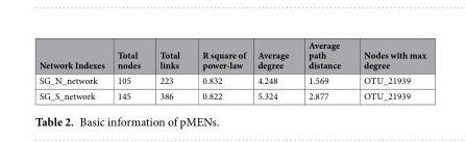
<table><thead><tr><td>Network Indexes</td><td>Total nodes</td><td>Total links</td><td>R square of power-law</td><td>Average degree</td><td>Average path distance</td><td>Nodes with max degree</td></tr></thead><tbody><tr><td>SG_N_network</td><td>105</td><td>223</td><td>0.832</td><td>4.248</td><td>1.569</td><td>OTU_21939</td></tr><tr><td>SG_S_network</td><td>145</td><td>386</td><td>0.822</td><td>5.324</td><td>2.877</td><td>OTU_21939</td></tr></tbody></table>